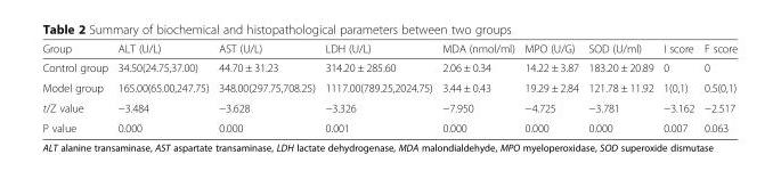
<table><thead><tr><td>Group</td><td>ALT (U/L)</td><td>AST (U/L)</td><td>LDH (U/L)</td><td>MDA (nmol/ml)</td><td>MPO (U/G)</td><td>SOD (U/ml)</td><td>I score</td><td>F score</td></tr></thead><tbody><tr><td>Control group</td><td>34.50(24.75,37.00)</td><td>44.70 ± 31.23</td><td>314.20 ± 285.60</td><td>2.06 ± 0.34</td><td>14.22 ± 3.87</td><td>183.20 ± 20.89</td><td>0</td><td>0</td></tr><tr><td>Model group</td><td>165.00(65.00,247.75)</td><td>348.00(297.75,708.25)</td><td>1117.00(789.25,2024.75)</td><td>3.44 ± 0.43</td><td>19.29 ± 2.84</td><td>121.78 ± 11.92</td><td>1(0,1)</td><td>0.5(0,1)</td></tr><tr><td>t/Z value</td><td>−3.484</td><td>−3.628</td><td>−3.326</td><td>−7.950</td><td>−4.725</td><td>−3.781</td><td>−3.162</td><td>−2.517</td></tr><tr><td>P value</td><td>0.000</td><td>0.000</td><td>0.001</td><td>0.000</td><td>0.000</td><td>0.000</td><td>0.007</td><td>0.063</td></tr></tbody></table>